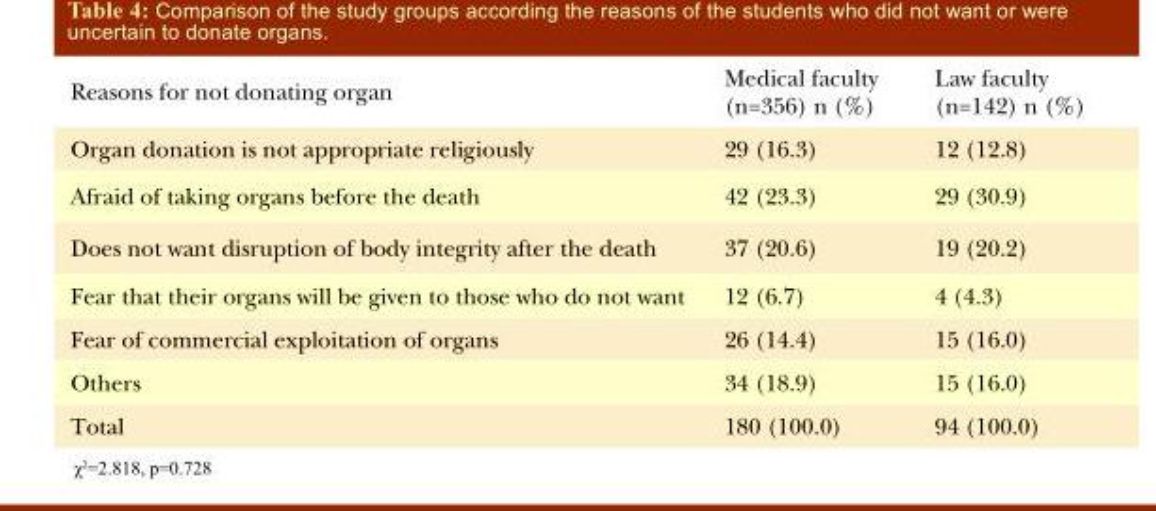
<table><thead><tr><td>Reasons for not donating organ</td><td>Medical faculty (n=356) n (%)</td><td>Law faculty (n=142) n (%)</td></tr></thead><tbody><tr><td>Organ donation is not appropriate religiously</td><td>29 (16.3)</td><td>12 (12.8)</td></tr><tr><td>Afraid of taking organs before the death</td><td>42 (23.3)</td><td>29 (30.9)</td></tr><tr><td>Does not want disruption of body integrity after the death</td><td>37 (20.6)</td><td>19 (20.2)</td></tr><tr><td>Fear that their organs will be given to those who do not want</td><td>12 (6.7)</td><td>4 (4.3)</td></tr><tr><td>Fear of commercial exploitation of organs</td><td>26 (14.4)</td><td>15 (16.0)</td></tr><tr><td>Others</td><td>34 (18.9)</td><td>15 (16.0)</td></tr><tr><td>Total</td><td>180 (100.0)</td><td>94 (100.0)</td></tr></tbody></table>